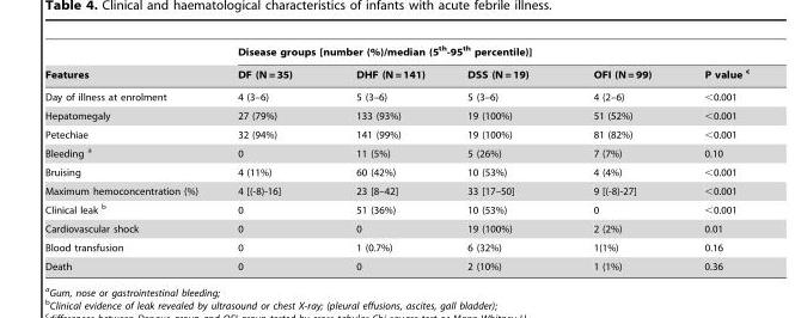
<table><thead><tr><td rowspan="2">Features</td><td colspan="5">Disease groups [number (%)/median (5<sup>th</sup>-95<sup>th</sup> percentile)]</td></tr><tr><td>DF (N = 35)</td><td>DHF (N = 141)</td><td>DSS (N = 19)</td><td>OFI (N = 99)</td><td>P value c</td></tr></thead><tbody><tr><td>Day of illness at enrolment</td><td>4 (3–6)</td><td>5 (3–6)</td><td>5 (3–6)</td><td>4 (2–6)</td><td>&lt;0.001</td></tr><tr><td>Hepatomegaly</td><td>27 (79%)</td><td>133 (93%)</td><td>19 (100%)</td><td>51 (52%)</td><td>&lt;0.001</td></tr><tr><td>Petechiae</td><td>32 (94%)</td><td>141 (99%)</td><td>19 (100%)</td><td>81 (82%)</td><td>&lt;0.001</td></tr><tr><td>Bleeding a</td><td>0</td><td>11 (5%)</td><td>5 (26%)</td><td>7 (7%)</td><td>0.10</td></tr><tr><td>Bruising</td><td>4 (11%)</td><td>60 (42%)</td><td>10 (53%)</td><td>4 (4%)</td><td>&lt;0.001</td></tr><tr><td>Maximum hemoconcentration (%)</td><td>4 [(-8)-16]</td><td>23 [8–42]</td><td>33 [17–50]</td><td>9 [(-8)-27]</td><td>&lt;0.001</td></tr><tr><td>Clinical leak b</td><td>0</td><td>51 (36%)</td><td>10 (53%)</td><td>0</td><td>&lt;0.001</td></tr><tr><td>Cardiovascular shock</td><td>0</td><td>0</td><td>19 (100%)</td><td>2 (2%)</td><td>0.01</td></tr><tr><td>Blood transfusion</td><td>0</td><td>1 (0.7%)</td><td>6 (32%)</td><td>1(1%)</td><td>0.16</td></tr><tr><td>Death</td><td>0</td><td>0</td><td>2 (10%)</td><td>1 (1%)</td><td>0.36</td></tr></tbody></table>